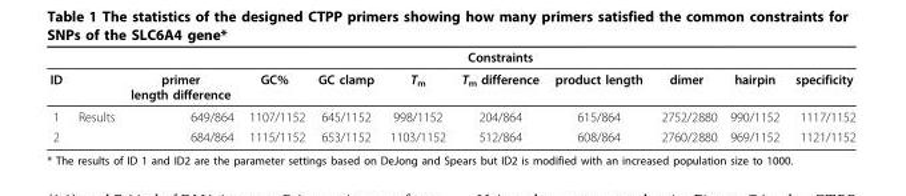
<table><thead><tr><td></td><td></td><td></td><td></td><td></td><td></td><td>Constraints</td><td></td><td></td><td></td><td></td></tr></thead><tbody><tr><td>ID</td><td></td><td>primer length difference</td><td>GC%</td><td>GC clamp</td><td>T<sub>m</sub></td><td>T<sub>m</sub> difference</td><td>product length</td><td>dimer</td><td>hairpin</td><td>specificity</td></tr><tr><td>1</td><td>Results</td><td>649/864</td><td>1107/1152</td><td>645/1152</td><td>998/1152</td><td>204/864</td><td>615/864</td><td>2752/2880</td><td>990/1152</td><td>1117/1152</td></tr><tr><td>2</td><td></td><td>684/864</td><td>1115/1152</td><td>653/1152</td><td>1103/1152</td><td>512/864</td><td>608/864</td><td>2760/2880</td><td>969/1152</td><td>1121/1152</td></tr></tbody></table>